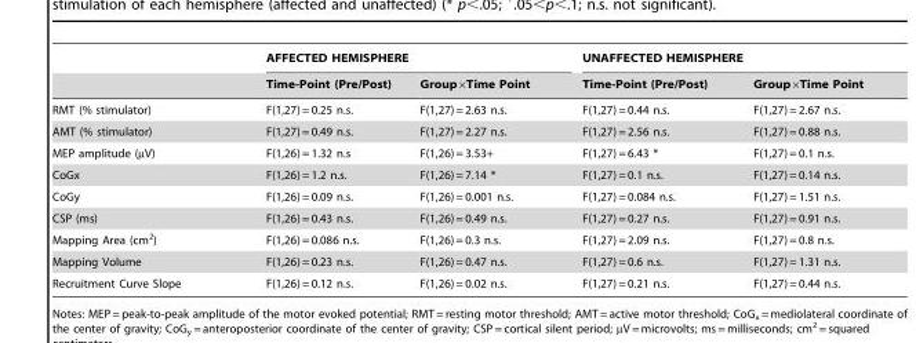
<table><thead><tr><td rowspan="2"></td><td colspan="2">AFFECTED HEMISPHERE</td><td colspan="2">UNAFFECTED HEMISPHERE</td></tr><tr><td>Time-Point (Pre/Post)</td><td>Group×Time Point</td><td>Time-Point (Pre/Post)</td><td>Group×Time Point</td></tr></thead><tbody><tr><td>RMT (% stimulator)</td><td>F(1,27) = 0.25 n.s.</td><td>F(1,27) = 2.63 n.s.</td><td>F(1,27) = 0.44 n.s.</td><td>F(1,27) = 2.67 n.s.</td></tr><tr><td>AMT (% stimulator)</td><td>F(1,27) = 0.49 n.s.</td><td>F(1,27) = 2.27 n.s.</td><td>F(1,27) = 2.56 n.s.</td><td>F(1,27) = 0.88 n.s.</td></tr><tr><td>MEP amplitude (µV)</td><td>F(1,26) = 1.32 n.s</td><td>F(1,26) = 3.53+</td><td>F(1,27) = 6.43 *</td><td>F(1,27) = 0.1 n.s.</td></tr><tr><td>CoGx</td><td>F(1,26) = 1.2 n.s.</td><td>F(1,26) = 7.14 *</td><td>F(1,27) = 0.1 n.s.</td><td>F(1,27) = 0.14 n.s.</td></tr><tr><td>CoGy</td><td>F(1,26) = 0.09 n.s.</td><td>F(1,26) = 0.001 n.s.</td><td>F(1,27) = 0.084 n.s.</td><td>F(1,27) = 1.51 n.s.</td></tr><tr><td>CSP (ms)</td><td>F(1,26) = 0.43 n.s.</td><td>F(1,26) = 0.49 n.s.</td><td>F(1,27) = 0.27 n.s.</td><td>F(1,27) = 0.91 n.s.</td></tr><tr><td>Mapping Area (cm<sup>2</sup>)</td><td>F(1,26) = 0.086 n.s.</td><td>F(1,26) = 0.3 n.s.</td><td>F(1,27) = 2.09 n.s.</td><td>F(1,27) = 0.8 n.s.</td></tr><tr><td>Mapping Volume</td><td>F(1,26) = 0.23 n.s.</td><td>F(1,26) = 0.47 n.s.</td><td>F(1,27) = 0.6 n.s.</td><td>F(1,27) = 1.31 n.s.</td></tr><tr><td>Recruitment Curve Slope</td><td>F(1,26) = 0.12 n.s.</td><td>F(1,26) = 0.02 n.s.</td><td>F(1,27) = 0.21 n.s.</td><td>F(1,27) = 0.44 n.s.</td></tr></tbody></table>